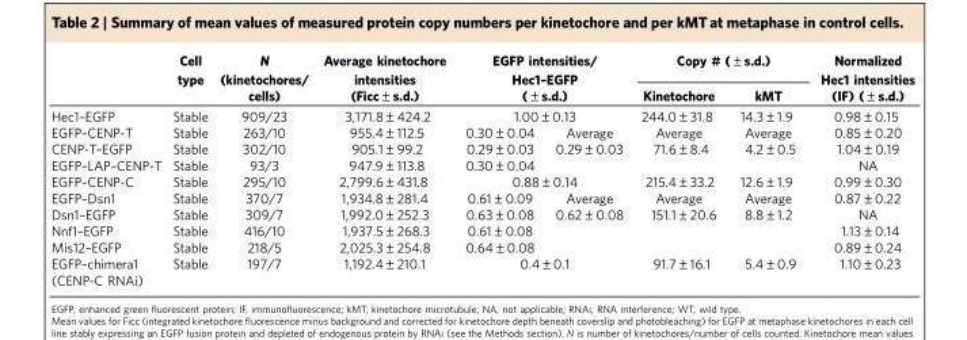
<table><thead><tr><td rowspan="5">Hec1–EGFP EGFP–CENP-T</td><td rowspan="5">Cell type Stable Stable</td><td rowspan="5">N (kinetochores/ cells) 909/23 263/10</td><td rowspan="5">Average kinetochore intensities (Ficc±s.d.) 3,171.8±424.2 955.4±112.5</td><td rowspan="4" colspan="2">EGFP intensities/ Hec1–EGFP (±s.d.) 1.00±0.13</td><td colspan="2">Copy # (±s.d.)</td><td rowspan="5">Normalized Hec1 intensities (IF) (±s.d.) 0.98±0.15 0.85±0.20</td></tr><tr><td rowspan="4">Kinetochore 244.0±31.8 Average</td><td rowspan="4">kMT 14.3±1.9 Average</td></tr><tr></tr><tr></tr><tr><td>0.30±0.04</td><td>Average</td></tr></thead><tbody><tr><td>CENP-T–EGFP</td><td>Stable</td><td>302/10</td><td>905.1±99.2</td><td>0.29±0.03</td><td>0.29±0.03</td><td>71.6±8.4</td><td>4.2±0.5</td><td>1.04±0.19</td></tr><tr><td>EGFP–LAP–CENP-T</td><td>Stable</td><td>93/3</td><td>947.9±113.8</td><td>0.30±0.04</td><td></td><td></td><td></td><td>NA</td></tr><tr><td>EGFP–CENP-C</td><td>Stable</td><td>295/10</td><td>2,799.6±431.8</td><td colspan="2">0.88±0.14</td><td>215.4±33.2</td><td>12.6±1.9</td><td>0.99±0.30</td></tr><tr><td>EGFP–Dsn1</td><td>Stable</td><td>370/7</td><td>1,934.8±281.4</td><td>0.61±0.09</td><td>Average</td><td>Average</td><td>Average</td><td>0.87±0.22</td></tr><tr><td>Dsn1–EGFP</td><td>Stable</td><td>309/7</td><td>1,992.0±252.3</td><td>0.63±0.08</td><td>0.62±0.08</td><td>151.1±20.6</td><td>8.8±1.2</td><td>NA</td></tr><tr><td>Nnf1–EGFP</td><td>Stable</td><td>416/10</td><td>1,937.5±268.3</td><td>0.61±0.08</td><td></td><td></td><td></td><td>1.13±0.14</td></tr><tr><td>Mis12–EGFP</td><td>Stable</td><td>218/5</td><td>2,025.3±254.8</td><td>0.64±0.08</td><td></td><td></td><td></td><td>0.89±0.24</td></tr><tr><td>EGFP–chimera1 (CENP-C RNAi)</td><td>Stable</td><td>197/7</td><td>1,192.4±210.1</td><td colspan="2">0.4±0.1</td><td>91.7±16.1</td><td>5.4±0.9</td><td>1.10±0.23</td></tr></tbody></table>